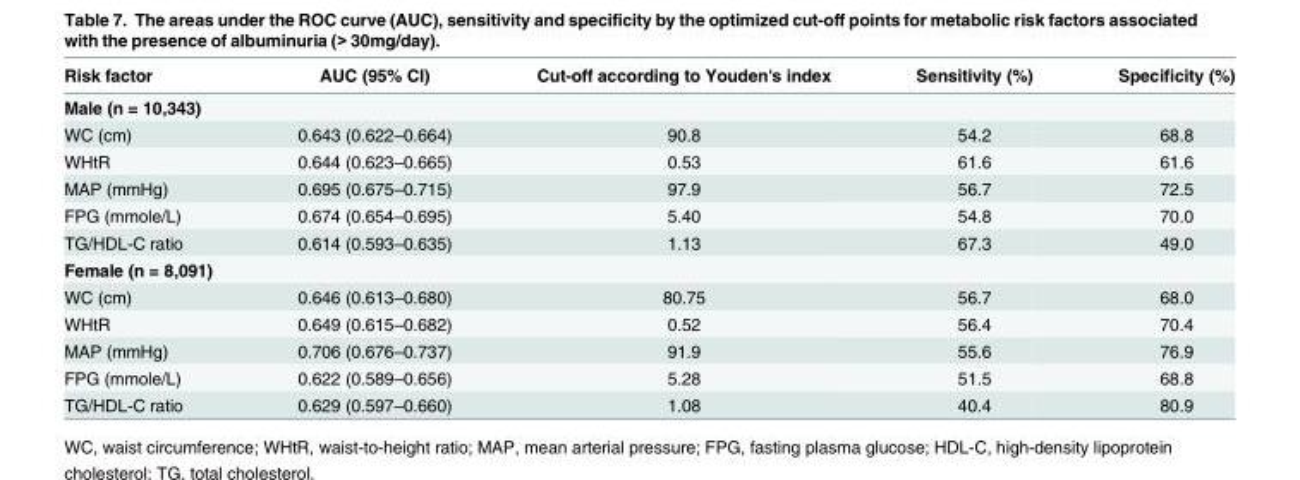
<table><thead><tr><td>Risk factor</td><td>AUC (95% CI)</td><td>Cut-off according to Youden&#x27;s index</td><td>Sensitivity (%)</td><td>Specificity (%)</td></tr></thead><tbody><tr><td colspan="5">Male (n = 10,343)</td></tr><tr><td>WC (cm)</td><td>0.643 (0.622–0.664)</td><td>90.8</td><td>54.2</td><td>68.8</td></tr><tr><td>WHtR</td><td>0.644 (0.623–0.665)</td><td>0.53</td><td>61.6</td><td>61.6</td></tr><tr><td>MAP (mmHg)</td><td>0.695 (0.675–0.715)</td><td>97.9</td><td>56.7</td><td>72.5</td></tr><tr><td>FPG (mmole/L)</td><td>0.674 (0.654–0.695)</td><td>5.40</td><td>54.8</td><td>70.0</td></tr><tr><td>TG/HDL-C ratio</td><td>0.614 (0.593–0.635)</td><td>1.13</td><td>67.3</td><td>49.0</td></tr><tr><td colspan="5">Female (n = 8,091)</td></tr><tr><td>WC (cm)</td><td>0.646 (0.613–0.680)</td><td>80.75</td><td>56.7</td><td>68.0</td></tr><tr><td>WHtR</td><td>0.649 (0.615–0.682)</td><td>0.52</td><td>56.4</td><td>70.4</td></tr><tr><td>MAP (mmHg)</td><td>0.706 (0.676–0.737)</td><td>91.9</td><td>55.6</td><td>76.9</td></tr><tr><td>FPG (mmole/L)</td><td>0.622 (0.589–0.656)</td><td>5.28</td><td>51.5</td><td>68.8</td></tr><tr><td>TG/HDL-C ratio</td><td>0.629 (0.597–0.660)</td><td>1.08</td><td>40.4</td><td>80.9</td></tr></tbody></table>